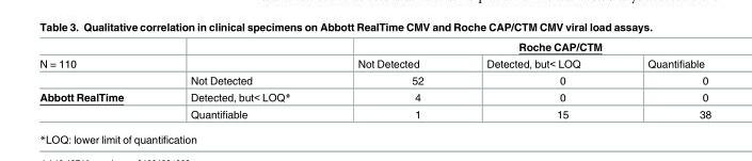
<table><thead><tr><td rowspan="2">N = 110</td><td rowspan="2"></td><td colspan="3">Roche CAP/CTM</td></tr><tr><td>Not Detected</td><td>Detected, but&lt; LOQ</td><td>Quantifiable</td></tr></thead><tbody><tr><td></td><td>Not Detected</td><td>52</td><td>0</td><td>0</td></tr><tr><td rowspan="2">Abbott RealTime</td><td>Detected, but&lt; LOQ*</td><td>4</td><td>0</td><td>0</td></tr><tr><td>Quantifiable</td><td>1</td><td>15</td><td>38</td></tr></tbody></table>